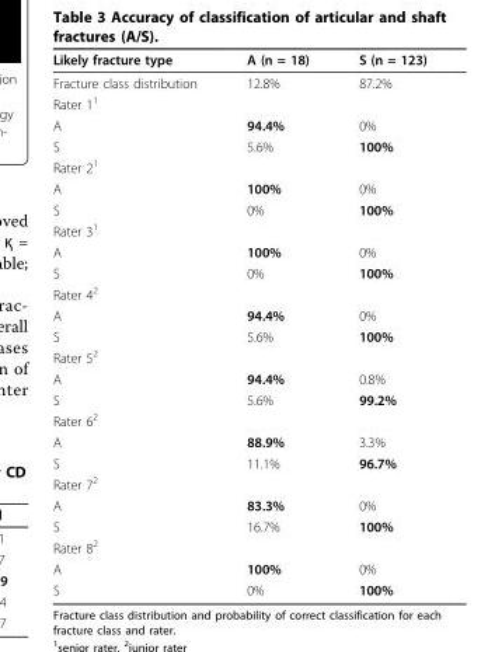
<table><thead><tr><td>Likely fracture type</td><td>A (n = 18)</td><td>S (n = 123)</td></tr></thead><tbody><tr><td>Fracture class distribution</td><td>12.8%</td><td>87.2%</td></tr><tr><td colspan="3">Rater 1<sup>1</sup></td></tr><tr><td>A</td><td>94.4%</td><td>0%</td></tr><tr><td>S</td><td>5.6%</td><td>100%</td></tr><tr><td colspan="3">Rater 2<sup>1</sup></td></tr><tr><td>A</td><td>100%</td><td>0%</td></tr><tr><td>S</td><td>0%</td><td>100%</td></tr><tr><td colspan="3">Rater 3<sup>1</sup></td></tr><tr><td>A</td><td>100%</td><td>0%</td></tr><tr><td>S</td><td>0%</td><td>100%</td></tr><tr><td colspan="3">Rater 4<sup>2</sup></td></tr><tr><td>A</td><td>94.4%</td><td>0%</td></tr><tr><td>S</td><td>5.6%</td><td>100%</td></tr><tr><td colspan="3">Rater 5<sup>2</sup></td></tr><tr><td>A</td><td>94.4%</td><td>0.8%</td></tr><tr><td>S</td><td>5.6%</td><td>99.2%</td></tr><tr><td colspan="3">Rater 6<sup>2</sup></td></tr><tr><td>A</td><td>88.9%</td><td>3.3%</td></tr><tr><td>S</td><td>11.1%</td><td>96.7%</td></tr><tr><td colspan="3">Rater 7<sup>2</sup></td></tr><tr><td>A</td><td>83.3%</td><td>0%</td></tr><tr><td>S</td><td>16.7%</td><td>100%</td></tr><tr><td colspan="3">Rater 8<sup>2</sup></td></tr><tr><td>A</td><td>100%</td><td>0%</td></tr><tr><td>S</td><td>0%</td><td>100%</td></tr></tbody></table>